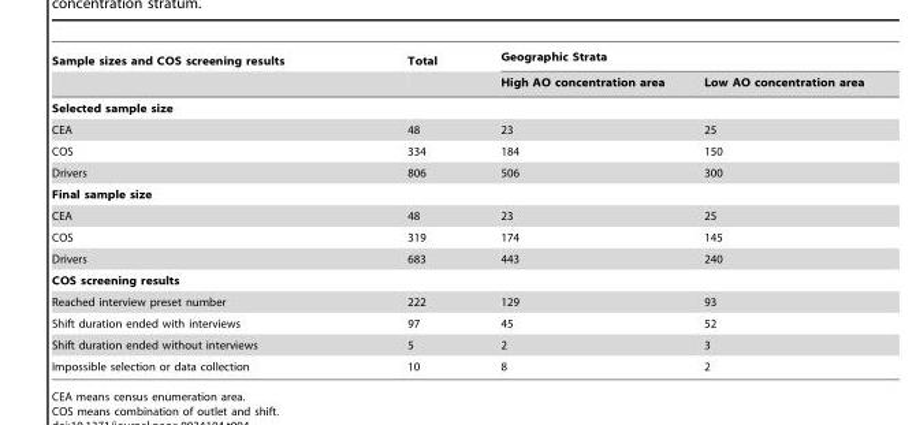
<table><thead><tr><td rowspan="2">Sample sizes and COS screening results</td><td rowspan="2">Total</td><td colspan="2">Geographic Strata</td></tr><tr><td>High AO concentration area</td><td>Low AO concentration area</td></tr></thead><tbody><tr><td colspan="4">Selected sample size</td></tr><tr><td>CEA</td><td>48</td><td>23</td><td>25</td></tr><tr><td>COS</td><td>334</td><td>184</td><td>150</td></tr><tr><td>Drivers</td><td>806</td><td>506</td><td>300</td></tr><tr><td colspan="4">Final sample size</td></tr><tr><td>CEA</td><td>48</td><td>23</td><td>25</td></tr><tr><td>COS</td><td>319</td><td>174</td><td>145</td></tr><tr><td>Drivers</td><td>683</td><td>443</td><td>240</td></tr><tr><td colspan="4">COS screening results</td></tr><tr><td>Reached interview preset number</td><td>222</td><td>129</td><td>93</td></tr><tr><td>Shift duration ended with interviews</td><td>97</td><td>45</td><td>52</td></tr><tr><td>Shift duration ended without interviews</td><td>5</td><td>2</td><td>3</td></tr><tr><td>Impossible selection or data collection</td><td>10</td><td>8</td><td>2</td></tr></tbody></table>